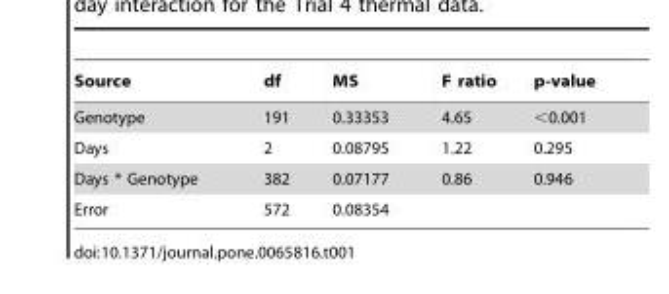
<table><thead><tr><td>Source</td><td>df</td><td>MS</td><td>F ratio</td><td>p-value</td></tr></thead><tbody><tr><td>Genotype</td><td>191</td><td>0.33353</td><td>4.65</td><td>&lt;0.001</td></tr><tr><td>Days</td><td>2</td><td>0.08795</td><td>1.22</td><td>0.295</td></tr><tr><td>Days * Genotype</td><td>382</td><td>0.07177</td><td>0.86</td><td>0.946</td></tr><tr><td>Error</td><td>572</td><td>0.08354</td><td></td><td></td></tr></tbody></table>